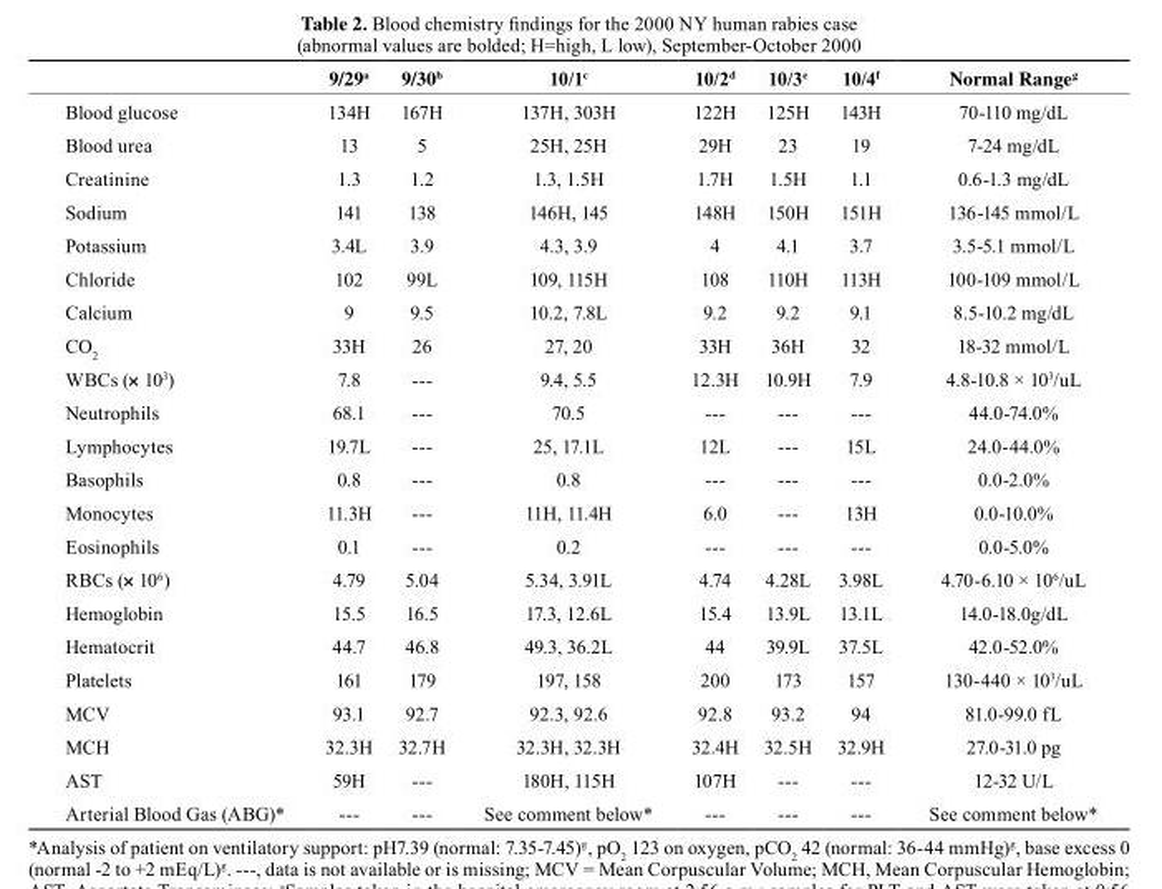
<table><thead><tr><td></td><td>9/29<sup>a</sup></td><td>9/30<sup>b</sup></td><td>10/1<sup>c</sup></td><td>10/2<sup>d</sup></td><td>10/3<sup>e</sup></td><td>10/4<sup>f</sup></td><td>Normal range<sup>g</sup></td></tr></thead><tbody><tr><td>Blood glucose</td><td>134H</td><td>167H</td><td>137H, 303H</td><td>122H</td><td>125H</td><td>143H</td><td>70-110 mg/dL</td></tr><tr><td>Blood urea</td><td>13</td><td>5</td><td>25H, 25H</td><td>29H</td><td>23</td><td>19</td><td>7-24 mg/dL</td></tr><tr><td>Creatinine</td><td>1.3</td><td>1.2</td><td>1.3, 1.5H</td><td>1.7H</td><td>1.5H</td><td>1.1</td><td>0.6-1.3 mg/dL</td></tr><tr><td>Sodium</td><td>141</td><td>138</td><td>146H, 145</td><td>148H</td><td>150H</td><td>151H</td><td>136-145 mmol/L</td></tr><tr><td>Potassium</td><td>3.4L</td><td>3.9</td><td>4.3, 3.9</td><td>4</td><td>4.1</td><td>3.7</td><td>3.5-5.1 mmol/L</td></tr><tr><td>Chloride</td><td>102</td><td>99L</td><td>109, 115H</td><td>108</td><td>110H</td><td>113H</td><td>100-109 mmol/L</td></tr><tr><td>Calcium</td><td>9</td><td>9.5</td><td>10.2, 7.8L</td><td>9.2</td><td>9.2</td><td>9.1</td><td>8.5-10.2 mg/dL</td></tr><tr><td>CO<sub>2</sub></td><td>33H</td><td>26</td><td>27, 20</td><td>33H</td><td>36H</td><td>32</td><td>18-32 mmol/L</td></tr><tr><td>WBCs (× 10<sup>3</sup>)</td><td>7.8</td><td>---</td><td>9.4, 5.5</td><td>12.3H</td><td>10.9H</td><td>7.9</td><td>4.8-10.8 × 10<sup>3</sup>/uL</td></tr><tr><td>Neutrophils</td><td>68.1</td><td>---</td><td>70.5</td><td>---</td><td>---</td><td>---</td><td>44.0-74.0%</td></tr><tr><td>Lymphocytes</td><td>19.7L</td><td>---</td><td>25, 17.1L</td><td>12L</td><td>---</td><td>15L</td><td>24.0-44.0%</td></tr><tr><td>Basophils</td><td>0.8</td><td>---</td><td>0.8</td><td>---</td><td>---</td><td>---</td><td>0.0-2.0%</td></tr><tr><td>Monocytes</td><td>11.3H</td><td>---</td><td>11H, 11.4H</td><td>6.0</td><td>---</td><td>13H</td><td>0.0-10.0%</td></tr><tr><td>Eosinophils</td><td>0.1</td><td>---</td><td>0.2</td><td>---</td><td>---</td><td>---</td><td>0.0-5.0%</td></tr><tr><td>RBCs (× 10<sup>6</sup>)</td><td>4.79</td><td>5.04</td><td>5.34, 3.91L</td><td>4.74</td><td>4.28L</td><td>3.98L</td><td>4.70-6.10 × 10<sup>6</sup>/uL</td></tr><tr><td>Hemoglobin</td><td>15.5</td><td>16.5</td><td>17.3, 12.6L</td><td>15.4</td><td>13.9L</td><td>13.1L</td><td>14.0-18.0g/dL</td></tr><tr><td>Hematocrit</td><td>44.7</td><td>46.8</td><td>49.3, 36.2L</td><td>44</td><td>39.9L</td><td>37.5L</td><td>42.0-52.0%</td></tr><tr><td>Platelets</td><td>161</td><td>179</td><td>197, 158</td><td>200</td><td>173</td><td>157</td><td>130-440 × 10<sup>3</sup>/uL</td></tr><tr><td>MCV</td><td>93.1</td><td>92.7</td><td>92.3, 92.6</td><td>92.8</td><td>93.2</td><td>94</td><td>81.0-99.0 fL</td></tr><tr><td>MCH</td><td>32.3H</td><td>32.7H</td><td>32.3H, 32.3H</td><td>32.4H</td><td>32.5H</td><td>32.9H</td><td>27.0-31.0 pg</td></tr><tr><td>AST</td><td>59H</td><td>---</td><td>180H, 115H</td><td>107H</td><td>---</td><td>---</td><td>12-32 U/L</td></tr><tr><td>Arterial Blood Gas (ABG)*</td><td>---</td><td>---</td><td>See comment below*</td><td>---</td><td>---</td><td>---</td><td>See comment below*</td></tr></tbody></table>